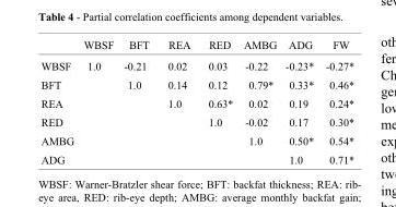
<table><thead><tr><td></td><td>WBSF</td><td>BFT</td><td>REA</td><td>RED</td><td>AMBG</td><td>ADG</td><td>FW</td></tr></thead><tbody><tr><td>WBSF</td><td>1.0</td><td>-0.21</td><td>0.02</td><td>0.03</td><td>-0.22</td><td>-0.23*</td><td>-0.27*</td></tr><tr><td>BFT</td><td></td><td>1.0</td><td>0.14</td><td>0.12</td><td>0.79*</td><td>0.33*</td><td>0.46*</td></tr><tr><td>REA</td><td></td><td></td><td>1.0</td><td>0.63*</td><td>0.02</td><td>0.19</td><td>0.24*</td></tr><tr><td>RED</td><td></td><td></td><td></td><td>1.0</td><td>-0.02</td><td>0.17</td><td>0.30*</td></tr><tr><td>AMBG</td><td></td><td></td><td></td><td></td><td>1.0</td><td>0.50*</td><td>0.54*</td></tr><tr><td>ADG</td><td></td><td></td><td></td><td></td><td></td><td>1.0</td><td>0.71*</td></tr></tbody></table>